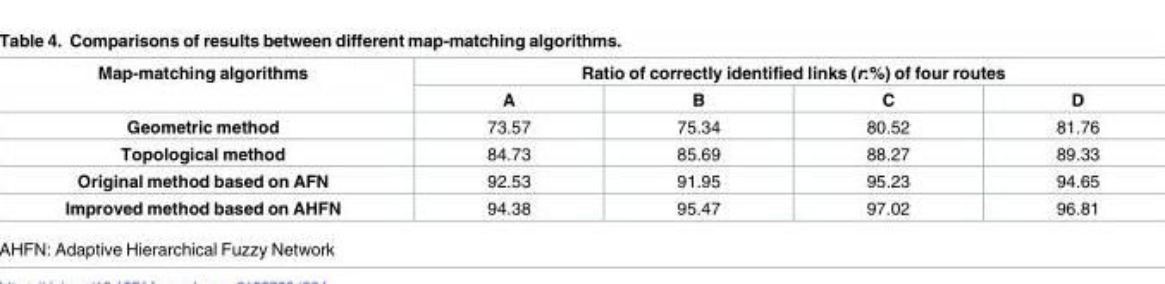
<table><thead><tr><td rowspan="2">Map-matching algorithms</td><td colspan="4">Ratio of correctly identified links (r:%) of four routes</td></tr><tr><td>A</td><td>B</td><td>C</td><td>D</td></tr></thead><tbody><tr><td>Geometric method</td><td>73.57</td><td>75.34</td><td>80.52</td><td>81.76</td></tr><tr><td>Topological method</td><td>84.73</td><td>85.69</td><td>88.27</td><td>89.33</td></tr><tr><td>Original method based on AFN</td><td>92.53</td><td>91.95</td><td>95.23</td><td>94.65</td></tr><tr><td>Improved method based on AHFN</td><td>94.38</td><td>95.47</td><td>97.02</td><td>96.81</td></tr></tbody></table>